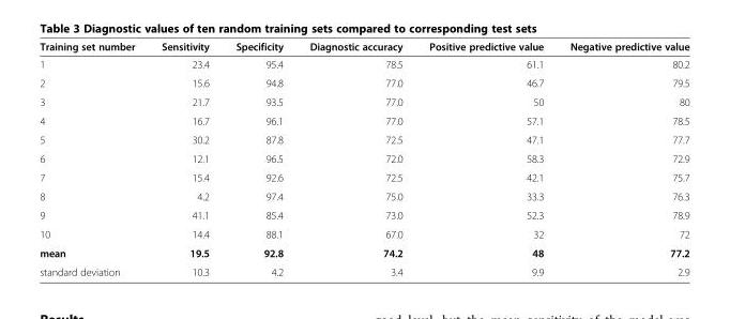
<table><thead><tr><td>Training set number</td><td>Sensitivity</td><td>Specificity</td><td>Diagnostic accuracy</td><td>Positive predictive value</td><td>Negative predictive value</td></tr></thead><tbody><tr><td>1</td><td>23.4</td><td>95.4</td><td>78.5</td><td>61.1</td><td>80.2</td></tr><tr><td>2</td><td>15.6</td><td>94.8</td><td>77.0</td><td>46.7</td><td>79.5</td></tr><tr><td>3</td><td>21.7</td><td>93.5</td><td>77.0</td><td>50</td><td>80</td></tr><tr><td>4</td><td>16.7</td><td>96.1</td><td>77.0</td><td>57.1</td><td>78.5</td></tr><tr><td>5</td><td>30.2</td><td>87.8</td><td>72.5</td><td>47.1</td><td>77.7</td></tr><tr><td>6</td><td>12.1</td><td>96.5</td><td>72.0</td><td>58.3</td><td>72.9</td></tr><tr><td>7</td><td>15.4</td><td>92.6</td><td>72.5</td><td>42.1</td><td>75.7</td></tr><tr><td>8</td><td>4.2</td><td>97.4</td><td>75.0</td><td>33.3</td><td>76.3</td></tr><tr><td>9</td><td>41.1</td><td>85.4</td><td>73.0</td><td>52.3</td><td>78.9</td></tr><tr><td>10</td><td>14.4</td><td>88.1</td><td>67.0</td><td>32</td><td>72</td></tr><tr><td>mean</td><td>19.5</td><td>92.8</td><td>74.2</td><td>48</td><td>77.2</td></tr><tr><td>standard deviation</td><td>10.3</td><td>4.2</td><td>3.4</td><td>9.9</td><td>2.9</td></tr></tbody></table>